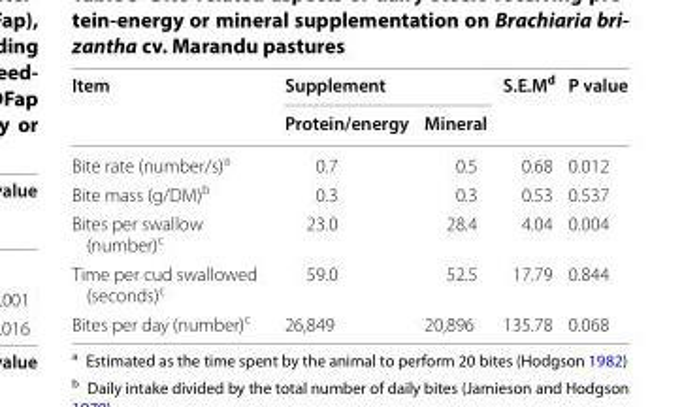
<table><thead><tr><td rowspan="2">Item</td><td colspan="2">Supplement</td><td rowspan="2">S.E.M<sup>d</sup></td><td rowspan="2">P value</td></tr><tr><td>Protein/energy</td><td>Mineral</td></tr></thead><tbody><tr><td>Bite rate (number/s)<sup>a</sup></td><td>0.7</td><td>0.5</td><td>0.68</td><td>0.012</td></tr><tr><td>Bite mass (g/DM)<sup>b</sup></td><td>0.3</td><td>0.3</td><td>0.53</td><td>0.537</td></tr><tr><td>Bites per swallow (number)<sup>c</sup></td><td>23.0</td><td>28.4</td><td>4.04</td><td>0.004</td></tr><tr><td>Time per cud swallowed (seconds)<sup>c</sup></td><td>59.0</td><td>52.5</td><td>17.79</td><td>0.844</td></tr><tr><td>Bites per day (number)<sup>c</sup></td><td>26,849</td><td>20,896</td><td>135.78</td><td>0.068</td></tr></tbody></table>